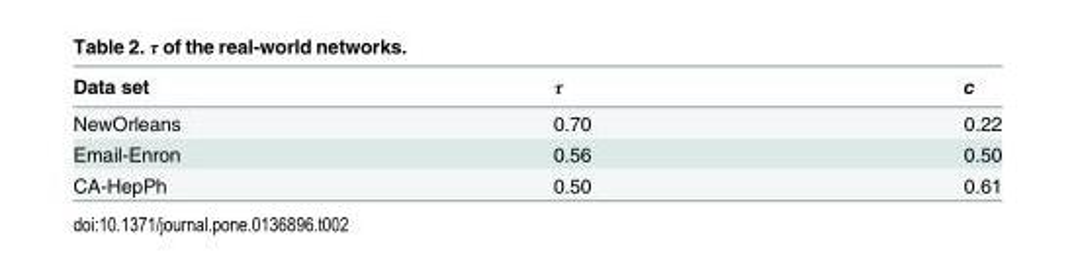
<table><thead><tr><td>Data set</td><td>τ</td><td>c</td></tr></thead><tbody><tr><td>NewOrleans</td><td>0.70</td><td>0.22</td></tr><tr><td>Email-Enron</td><td>0.56</td><td>0.50</td></tr><tr><td>CA-HepPh</td><td>0.50</td><td>0.61</td></tr></tbody></table>